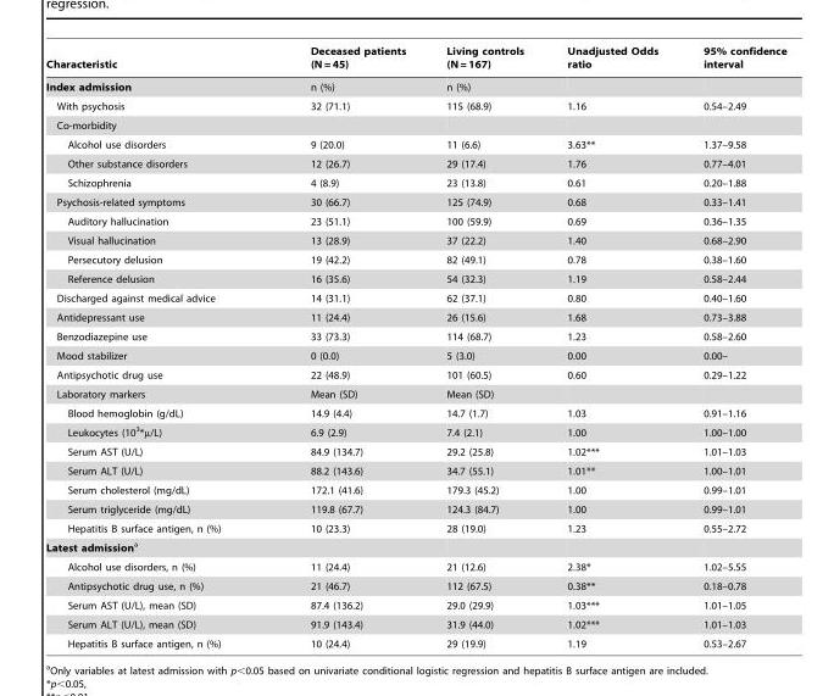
<table><thead><tr><td>Characteristic</td><td>Deceased patients (N = 45)</td><td>Living controls (N = 167)</td><td>Unadjusted Odds ratio</td><td>95% confidence interval</td></tr></thead><tbody><tr><td>Index admission</td><td>n (%)</td><td>n (%)</td><td></td><td></td></tr><tr><td>With psychosis</td><td>32 (71.1)</td><td>115 (68.9)</td><td>1.16</td><td>0.54–2.49</td></tr><tr><td colspan="5">Co-morbidity</td></tr><tr><td>Alcohol use disorders</td><td>9 (20.0)</td><td>11 (6.6)</td><td>3.63**</td><td>1.37–9.58</td></tr><tr><td>Other substance disorders</td><td>12 (26.7)</td><td>29 (17.4)</td><td>1.76</td><td>0.77–4.01</td></tr><tr><td>Schizophrenia</td><td>4 (8.9)</td><td>23 (13.8)</td><td>0.61</td><td>0.20–1.88</td></tr><tr><td>Psychosis-related symptoms</td><td>30 (66.7)</td><td>125 (74.9)</td><td>0.68</td><td>0.33–1.41</td></tr><tr><td>Auditory hallucination</td><td>23 (51.1)</td><td>100 (59.9)</td><td>0.69</td><td>0.36–1.35</td></tr><tr><td>Visual hallucination</td><td>13 (28.9)</td><td>37 (22.2)</td><td>1.40</td><td>0.68–2.90</td></tr><tr><td>Persecutory delusion</td><td>19 (42.2)</td><td>82 (49.1)</td><td>0.78</td><td>0.38–1.60</td></tr><tr><td>Reference delusion</td><td>16 (35.6)</td><td>54 (32.3)</td><td>1.19</td><td>0.58–2.44</td></tr><tr><td>Discharged against medical advice</td><td>14 (31.1)</td><td>62 (37.1)</td><td>0.80</td><td>0.40–1.60</td></tr><tr><td>Antidepressant use</td><td>11 (24.4)</td><td>26 (15.6)</td><td>1.68</td><td>0.73–3.88</td></tr><tr><td>Benzodiazepine use</td><td>33 (73.3)</td><td>114 (68.7)</td><td>1.23</td><td>0.58–2.60</td></tr><tr><td>Mood stabilizer</td><td>0 (0.0)</td><td>5 (3.0)</td><td>0.00</td><td>0.00–</td></tr><tr><td>Antipsychotic drug use</td><td>22 (48.9)</td><td>101 (60.5)</td><td>0.60</td><td>0.29–1.22</td></tr><tr><td>Laboratory markers</td><td>Mean (SD)</td><td>Mean (SD)</td><td></td><td></td></tr><tr><td>Blood hemoglobin (g/dL)</td><td>14.9 (4.4)</td><td>14.7 (1.7)</td><td>1.03</td><td>0.91–1.16</td></tr><tr><td>Leukocytes (10<sup>3</sup>*µ/L)</td><td>6.9 (2.9)</td><td>7.4 (2.1)</td><td>1.00</td><td>1.00–1.00</td></tr><tr><td>Serum AST (U/L)</td><td>84.9 (134.7)</td><td>29.2 (25.8)</td><td>1.02***</td><td>1.01–1.03</td></tr><tr><td>Serum ALT (U/L)</td><td>88.2 (143.6)</td><td>34.7 (55.1)</td><td>1.01**</td><td>1.00–1.01</td></tr><tr><td>Serum cholesterol (mg/dL)</td><td>172.1 (41.6)</td><td>179.3 (45.2)</td><td>1.00</td><td>0.99–1.01</td></tr><tr><td>Serum triglyceride (mg/dL)</td><td>119.8 (67.7)</td><td>124.3 (84.7)</td><td>1.00</td><td>0.99–1.01</td></tr><tr><td>Hepatitis B surface antigen, n (%)</td><td>10 (23.3)</td><td>28 (19.0)</td><td>1.23</td><td>0.55–2.72</td></tr><tr><td colspan="5">Latest admissiona</td></tr><tr><td>Alcohol use disorders, n (%)</td><td>11 (24.4)</td><td>21 (12.6)</td><td>2.38*</td><td>1.02–5.55</td></tr><tr><td>Antipsychotic drug use, n (%)</td><td>21 (46.7)</td><td>112 (67.5)</td><td>0.38**</td><td>0.18–0.78</td></tr><tr><td>Serum AST (U/L), mean (SD)</td><td>87.4 (136.2)</td><td>29.0 (29.9)</td><td>1.03***</td><td>1.01–1.05</td></tr><tr><td>Serum ALT (U/L), mean (SD)</td><td>91.9 (143.4)</td><td>31.9 (44.0)</td><td>1.02***</td><td>1.01–1.03</td></tr><tr><td>Hepatitis B surface antigen, n (%)</td><td>10 (24.4)</td><td>29 (19.9)</td><td>1.19</td><td>0.53–2.67</td></tr></tbody></table>